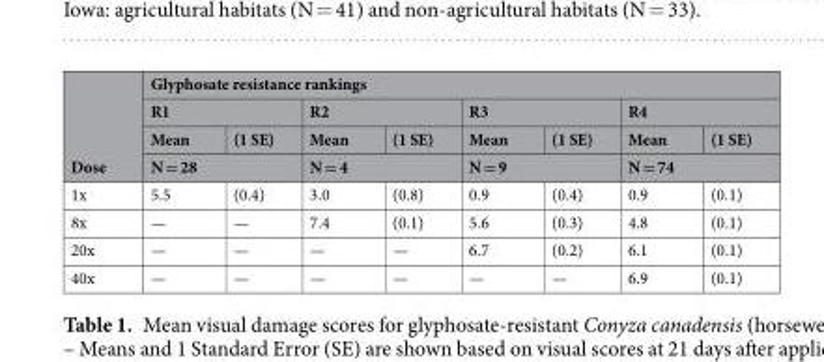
<table><thead><tr><td rowspan="4">Dose</td><td colspan="8">Glyphosate resistance rankings</td></tr><tr><td colspan="2">R1</td><td colspan="2">R2</td><td colspan="2">R3</td><td colspan="2">R4</td></tr><tr><td>Mean</td><td>(1 SE)</td><td>Mean</td><td>(1 SE)</td><td>Mean</td><td>(1 SE)</td><td>Mean</td><td>(1 SE)</td></tr><tr><td colspan="2">N = 28</td><td colspan="2">N = 4</td><td colspan="2">N = 9</td><td colspan="2">N = 74</td></tr></thead><tbody><tr><td>1x</td><td>5.5</td><td>(0.4)</td><td>3.0</td><td>(0.8)</td><td>0.9</td><td>(0.4)</td><td>0.9</td><td>(0.1)</td></tr><tr><td>8x</td><td>—</td><td>—</td><td>7.4</td><td>(0.1)</td><td>5.6</td><td>(0.3)</td><td>4.8</td><td>(0.1)</td></tr><tr><td>20x</td><td>—</td><td>—</td><td>—</td><td>—</td><td>6.7</td><td>(0.2)</td><td>6.1</td><td>(0.1)</td></tr><tr><td>40x</td><td>—</td><td>—</td><td>—</td><td>—</td><td>—</td><td>—</td><td>6.9</td><td>(0.1)</td></tr></tbody></table>